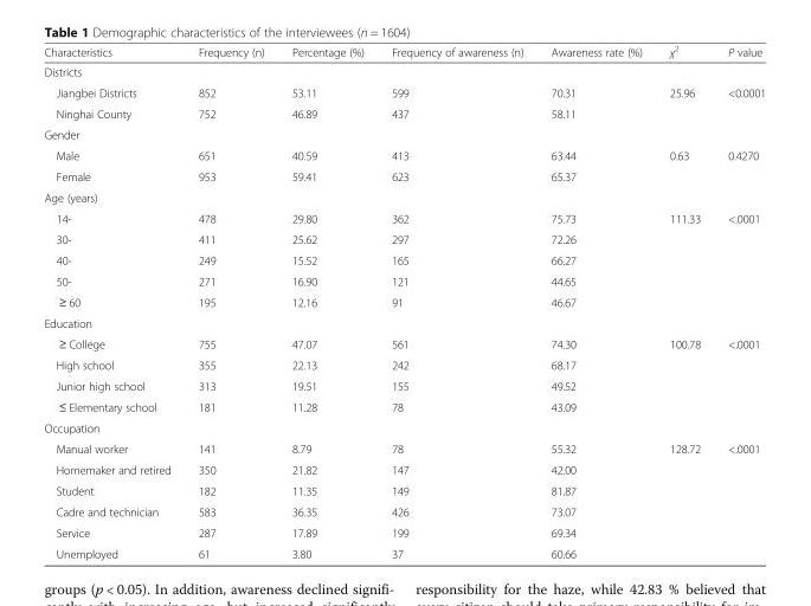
<table><thead><tr><td>Characteristics</td><td>Frequency (n)</td><td>Percentage (%)</td><td>Frequency of awareness (n)</td><td>Awareness rate (%)</td><td>χ<sup>2</sup></td><td>P value</td></tr></thead><tbody><tr><td colspan="7">Districts</td></tr><tr><td>Jiangbei Districts</td><td>852</td><td>53.11</td><td>599</td><td>70.31</td><td rowspan="2">25.96</td><td rowspan="2">&lt;0.0001</td></tr><tr><td>Ninghai County</td><td>752</td><td>46.89</td><td>437</td><td>58.11</td></tr><tr><td colspan="7">Gender</td></tr><tr><td>Male</td><td>651</td><td>40.59</td><td>413</td><td>63.44</td><td>0.63</td><td>0.4270</td></tr><tr><td>Female</td><td>953</td><td>59.41</td><td>623</td><td>65.37</td><td></td><td></td></tr><tr><td colspan="7">Age (years)</td></tr><tr><td>14-</td><td>478</td><td>29.80</td><td>362</td><td>75.73</td><td rowspan="5">111.33</td><td rowspan="5">&lt;.0001</td></tr><tr><td>30-</td><td>411</td><td>25.62</td><td>297</td><td>72.26</td></tr><tr><td>40-</td><td>249</td><td>15.52</td><td>165</td><td>66.27</td></tr><tr><td>50-</td><td>271</td><td>16.90</td><td>121</td><td>44.65</td></tr><tr><td>≥ 60</td><td>195</td><td>12.16</td><td>91</td><td>46.67</td></tr><tr><td colspan="7">Education</td></tr><tr><td>≥ College</td><td>755</td><td>47.07</td><td>561</td><td>74.30</td><td rowspan="4">100.78</td><td rowspan="4">&lt;.0001</td></tr><tr><td>High school</td><td>355</td><td>22.13</td><td>242</td><td>68.17</td></tr><tr><td>Junior high school</td><td>313</td><td>19.51</td><td>155</td><td>49.52</td></tr><tr><td>≤ Elementary school</td><td>181</td><td>11.28</td><td>78</td><td>43.09</td></tr><tr><td colspan="7">Occupation</td></tr><tr><td>Manual worker</td><td>141</td><td>8.79</td><td>78</td><td>55.32</td><td rowspan="6">128.72</td><td rowspan="6">&lt;.0001</td></tr><tr><td>Homemaker and retired</td><td>350</td><td>21.82</td><td>147</td><td>42.00</td></tr><tr><td>Student</td><td>182</td><td>11.35</td><td>149</td><td>81.87</td></tr><tr><td>Cadre and technician</td><td>583</td><td>36.35</td><td>426</td><td>73.07</td></tr><tr><td>Service</td><td>287</td><td>17.89</td><td>199</td><td>69.34</td></tr><tr><td>Unemployed</td><td>61</td><td>3.80</td><td>37</td><td>60.66</td></tr></tbody></table>